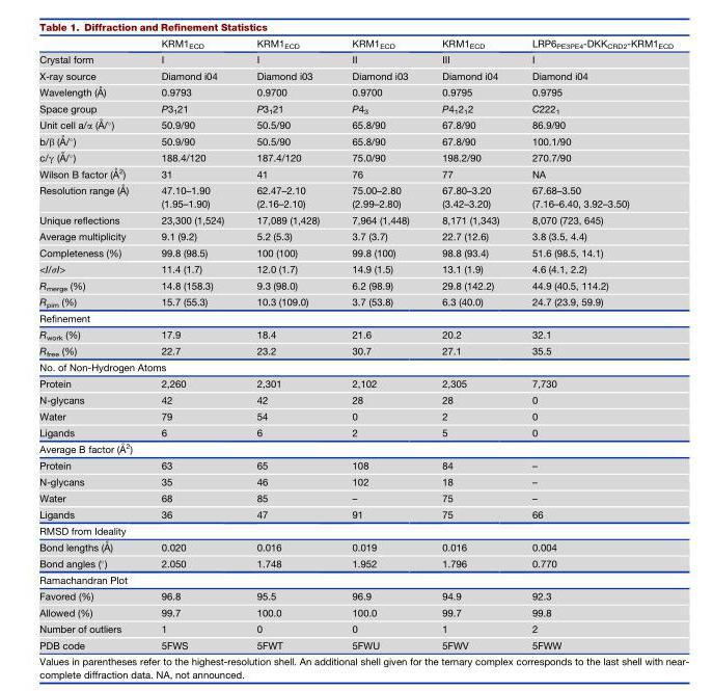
<table><thead><tr><td></td><td>KRM1<sub>ECD</sub></td><td>KRM1<sub>ECD</sub></td><td>KRM1<sub>ECD</sub></td><td>KRM1<sub>ECD</sub></td><td>LRP6<sub>PE3PE4</sub>-DKK<sub>CRD2</sub>-KRM1<sub>ECD</sub></td></tr></thead><tbody><tr><td>Crystal form</td><td>I</td><td>I</td><td>II</td><td>III</td><td>I</td></tr><tr><td>X-ray source</td><td>Diamond i04</td><td>Diamond i03</td><td>Diamond i03</td><td>Diamond i04</td><td>Diamond i04</td></tr><tr><td>Wavelength (A˚ )</td><td>0.9793</td><td>0.9700</td><td>0.9700</td><td>0.9795</td><td>0.9795</td></tr><tr><td>Space group</td><td>P3<sub>1</sub>21</td><td>P3<sub>1</sub>21</td><td>P4<sub>3</sub></td><td>P4<sub>1</sub>2<sub>1</sub>2</td><td>C222<sub>1</sub></td></tr><tr><td>Unit cell a/a (A˚ /�)</td><td>50.9/90</td><td>50.5/90</td><td>65.8/90</td><td>67.8/90</td><td>86.9/90</td></tr><tr><td>b/b (A˚ /�)</td><td>50.9/90</td><td>50.5/90</td><td>65.8/90</td><td>67.8/90</td><td>100.1/90</td></tr><tr><td>c/g (A˚ /�)</td><td>188.4/120</td><td>187.4/120</td><td>75.0/90</td><td>198.2/90</td><td>270.7/90</td></tr><tr><td>Wilson B factor (A˚ 2)</td><td>31</td><td>41</td><td>76</td><td>77</td><td>NA</td></tr><tr><td>Resolution range (A˚ )</td><td>47.10–1.90 (1.95–1.90)</td><td>62.47–2.10 (2.16–2.10)</td><td>75.00–2.80 (2.99–2.80)</td><td>67.80–3.20 (3.42–3.20)</td><td>67.68–3.50 (7.16–6.40, 3.92–3.50)</td></tr><tr><td>Unique reflections</td><td>23,300 (1,524)</td><td>17,089 (1,428)</td><td>7,964 (1,448)</td><td>8,171 (1,343)</td><td>8,070 (723, 645)</td></tr><tr><td>Average multiplicity</td><td>9.1 (9.2)</td><td>5.2 (5.3)</td><td>3.7 (3.7)</td><td>22.7 (12.6)</td><td>3.8 (3.5, 4.4)</td></tr><tr><td>Completeness (%)</td><td>99.8 (98.5)</td><td>100 (100)</td><td>99.8 (100)</td><td>98.8 (93.4)</td><td>51.6 (98.5, 14.1)</td></tr><tr><td>&lt;I/σI&gt;</td><td>11.4 (1.7)</td><td>12.0 (1.7)</td><td>14.9 (1.5)</td><td>13.1 (1.9)</td><td>4.6 (4.1, 2.2)</td></tr><tr><td>R<sub>merge</sub> (%)</td><td>14.8 (158.3)</td><td>9.3 (98.0)</td><td>6.2 (98.9)</td><td>29.8 (142.2)</td><td>44.9 (40.5, 114.2)</td></tr><tr><td>R<sub>pim</sub> (%)</td><td>15.7 (55.3)</td><td>10.3 (109.0)</td><td>3.7 (53.8)</td><td>6.3 (40.0)</td><td>24.7 (23.9, 59.9)</td></tr><tr><td colspan="6">Refinement</td></tr><tr><td>R<sub>work</sub> (%)</td><td>17.9</td><td>18.4</td><td>21.6</td><td>20.2</td><td>32.1</td></tr><tr><td>R<sub>free</sub> (%)</td><td>22.7</td><td>23.2</td><td>30.7</td><td>27.1</td><td>35.5</td></tr><tr><td colspan="6">No. of Non-Hydrogen Atoms</td></tr><tr><td>Protein</td><td>2,260</td><td>2,301</td><td>2,102</td><td>2,305</td><td>7,730</td></tr><tr><td>N-glycans</td><td>42</td><td>42</td><td>28</td><td>28</td><td>0</td></tr><tr><td>Water</td><td>79</td><td>54</td><td>0</td><td>2</td><td>0</td></tr><tr><td>Ligands</td><td>6</td><td>6</td><td>2</td><td>5</td><td>0</td></tr><tr><td colspan="6">Average B factor (A˚ 2)</td></tr><tr><td>Protein</td><td>63</td><td>65</td><td>108</td><td>84</td><td>–</td></tr><tr><td>N-glycans</td><td>35</td><td>46</td><td>102</td><td>18</td><td>–</td></tr><tr><td>Water</td><td>68</td><td>85</td><td>–</td><td>75</td><td>–</td></tr><tr><td>Ligands</td><td>36</td><td>47</td><td>91</td><td>75</td><td>66</td></tr><tr><td colspan="6">RMSD from Ideality</td></tr><tr><td>Bond lengths (A˚ )</td><td>0.020</td><td>0.016</td><td>0.019</td><td>0.016</td><td>0.004</td></tr><tr><td>Bond angles (°)</td><td>2.050</td><td>1.748</td><td>1.952</td><td>1.796</td><td>0.770</td></tr><tr><td colspan="6">Ramachandran Plot</td></tr><tr><td>Favored (%)</td><td>96.8</td><td>95.5</td><td>96.9</td><td>94.9</td><td>92.3</td></tr><tr><td>Allowed (%)</td><td>99.7</td><td>100.0</td><td>100.0</td><td>99.7</td><td>99.8</td></tr><tr><td>Number of outliers</td><td>1</td><td>0</td><td>0</td><td>1</td><td>2</td></tr><tr><td>PDB code</td><td>5FWS</td><td>5FWT</td><td>5FWU</td><td>5FWV</td><td>5FWW</td></tr></tbody></table>